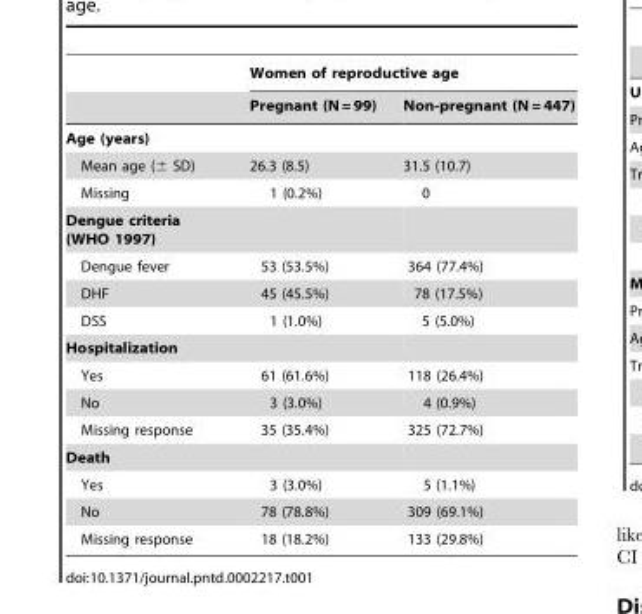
<table><thead><tr><td rowspan="2"></td><td colspan="2">Women of reproductive age</td></tr><tr><td>Pregnant (N = 99)</td><td>Non-pregnant (N = 447)</td></tr></thead><tbody><tr><td colspan="3">Age (years)</td></tr><tr><td>Mean age (± SD)</td><td>26.3 (8.5)</td><td>31.5 (10.7)</td></tr><tr><td>Missing</td><td>1 (0.2%)</td><td>0</td></tr><tr><td colspan="3">Dengue criteria (WHO 1997)</td></tr><tr><td>Dengue fever</td><td>53 (53.5%)</td><td>364 (77.4%)</td></tr><tr><td>DHF</td><td>45 (45.5%)</td><td>78 (17.5%)</td></tr><tr><td>DSS</td><td>1 (1.0%)</td><td>5 (5.0%)</td></tr><tr><td colspan="3">Hospitalization</td></tr><tr><td>Yes</td><td>61 (61.6%)</td><td>118 (26.4%)</td></tr><tr><td>No</td><td>3 (3.0%)</td><td>4 (0.9%)</td></tr><tr><td>Missing response</td><td>35 (35.4%)</td><td>325 (72.7%)</td></tr><tr><td colspan="3">Death</td></tr><tr><td>Yes</td><td>3 (3.0%)</td><td>5 (1.1%)</td></tr><tr><td>No</td><td>78 (78.8%)</td><td>309 (69.1%)</td></tr><tr><td>Missing response</td><td>18 (18.2%)</td><td>133 (29.8%)</td></tr></tbody></table>